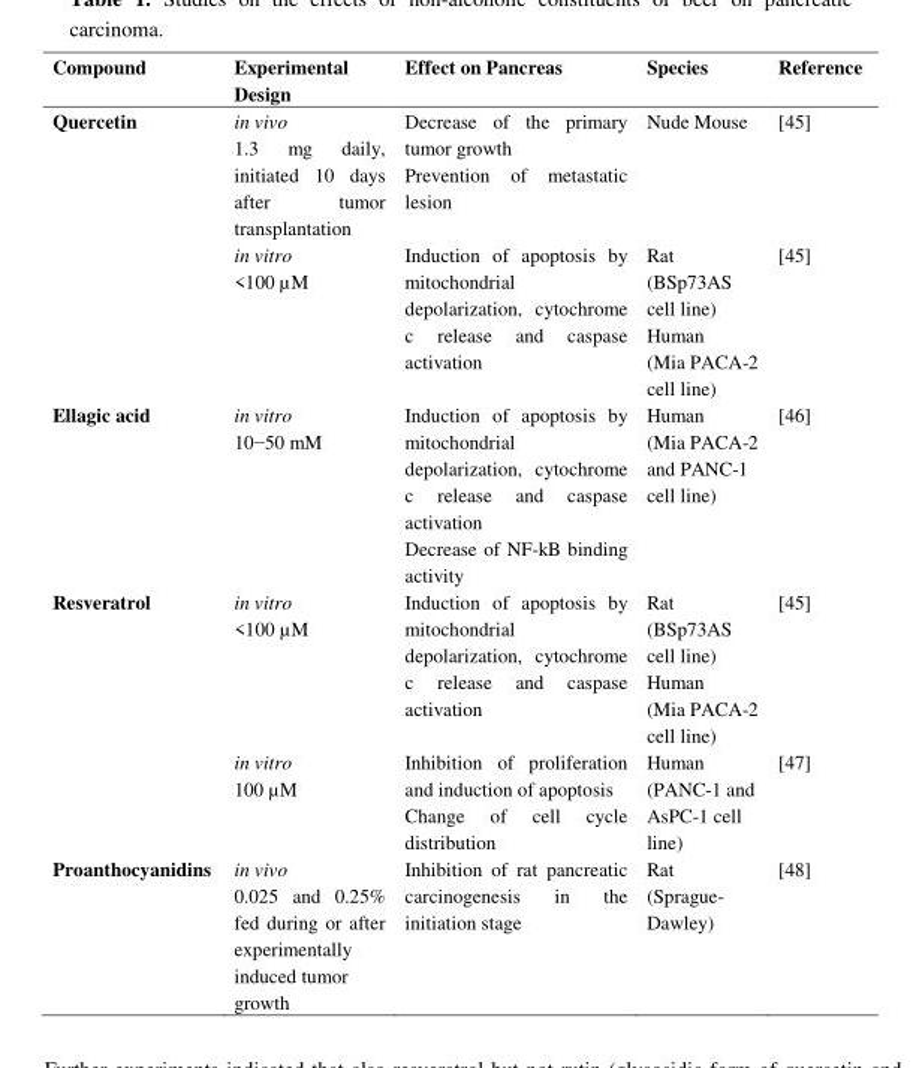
<table><thead><tr><td>Compound</td><td>Experimental Design</td><td>Effect on Pancreas</td><td>Species</td><td>Reference</td></tr></thead><tbody><tr><td rowspan="2">Quercetin</td><td>in vivo 1.3 mg daily, initiated 10 days after tumor transplantation</td><td>Decrease of the primary tumor growth Prevention of metastatic lesion</td><td>Nude Mouse</td><td>[45]</td></tr><tr><td>in vitro &lt;100 µM</td><td>Induction of apoptosis by mitochondrial depolarization, cytochrome c release and caspase activation</td><td>Rat (BSp73AS cell line) Human (Mia PACA-2 cell line)</td><td>[45]</td></tr><tr><td>Ellagic acid</td><td>in vitro 10−50 mM</td><td>Induction of apoptosis by mitochondrial depolarization, cytochrome c release and caspase activation Decrease of NF-kB binding activity</td><td>Human (Mia PACA-2 and PANC-1 cell line)</td><td>[46]</td></tr><tr><td rowspan="2">Resveratrol</td><td>in vitro &lt;100 µM</td><td>Induction of apoptosis by mitochondrial depolarization, cytochrome c release and caspase activation</td><td>Rat (BSp73AS cell line) Human (Mia PACA-2 cell line)</td><td>[45]</td></tr><tr><td>in vitro 100 µM</td><td>Inhibition of proliferation and induction of apoptosis Change of cell cycle distribution</td><td>Human (PANC-1 and AsPC-1 cell line)</td><td>[47]</td></tr><tr><td>Proanthocyanidins</td><td>in vivo 0.025 and 0.25% fed during or after experimentally induced tumor growth</td><td>Inhibition of rat pancreatic carcinogenesis in the initiation stage</td><td>Rat (Sprague- Dawley)</td><td>[48]</td></tr></tbody></table>